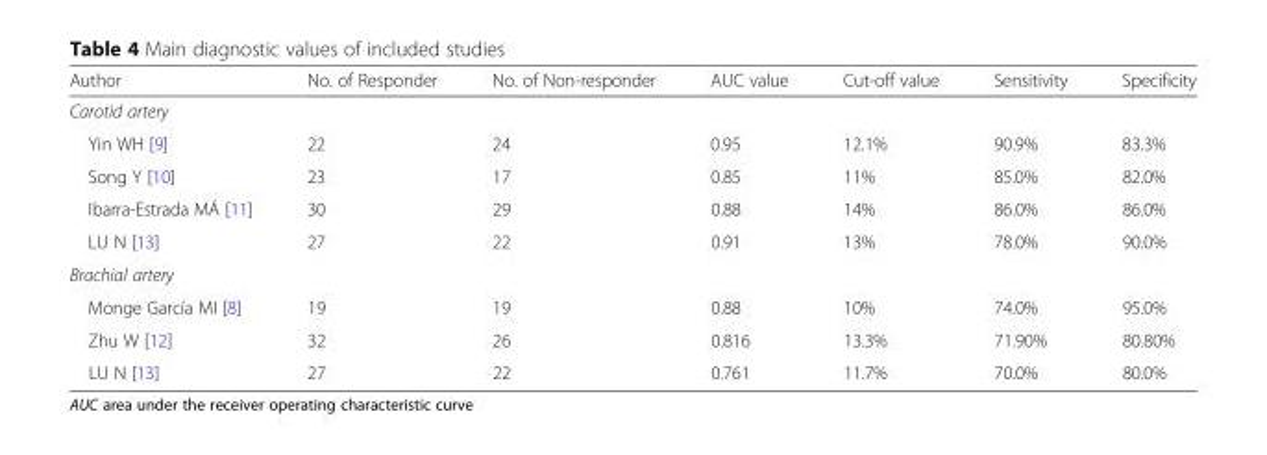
<table><thead><tr><td>Author</td><td>No. of Responder</td><td>No. of Non-responder</td><td>AUC value</td><td>Cut-off value</td><td>Sensitivity</td><td>Specificity</td></tr></thead><tbody><tr><td colspan="7">Carotid artery</td></tr><tr><td>Yin WH [9]</td><td>22</td><td>24</td><td>0.95</td><td>12.1%</td><td>90.9%</td><td>83.3%</td></tr><tr><td>Song Y [10]</td><td>23</td><td>17</td><td>0.85</td><td>11%</td><td>85.0%</td><td>82.0%</td></tr><tr><td>Ibarra-Estrada MÁ [11]</td><td>30</td><td>29</td><td>0.88</td><td>14%</td><td>86.0%</td><td>86.0%</td></tr><tr><td>LU N [13]</td><td>27</td><td>22</td><td>0.91</td><td>13%</td><td>78.0%</td><td>90.0%</td></tr><tr><td colspan="7">Brachial artery</td></tr><tr><td>Monge García MI [8]</td><td>19</td><td>19</td><td>0.88</td><td>10%</td><td>74.0%</td><td>95.0%</td></tr><tr><td>Zhu W [12]</td><td>32</td><td>26</td><td>0.816</td><td>13.3%</td><td>71.90%</td><td>80.80%</td></tr><tr><td>LU N [13]</td><td>27</td><td>22</td><td>0.761</td><td>11.7%</td><td>70.0%</td><td>80.0%</td></tr></tbody></table>